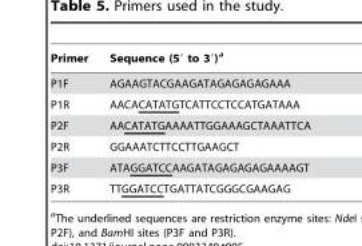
<table><thead><tr><td>Primer</td><td>Sequence (5′ to 3′)<sup>a</sup></td></tr></thead><tbody><tr><td>P1F</td><td>AGAAGTACGAAGATAGAGAGAGAAA</td></tr><tr><td>P1R</td><td>AACACATATGTCATTCCTCCATGATAAA</td></tr><tr><td>P2F</td><td>AACATATGAAAATTGGAAAGCTAAATTCA</td></tr><tr><td>P2R</td><td>GGAAATCTTCCTTGAAGCT</td></tr><tr><td>P3F</td><td>ATAGGATCCAAGATAGAGAGAGAAAAGT</td></tr><tr><td>P3R</td><td>TTGGATCCTGATTATCGGGCGAAGAG</td></tr></tbody></table>